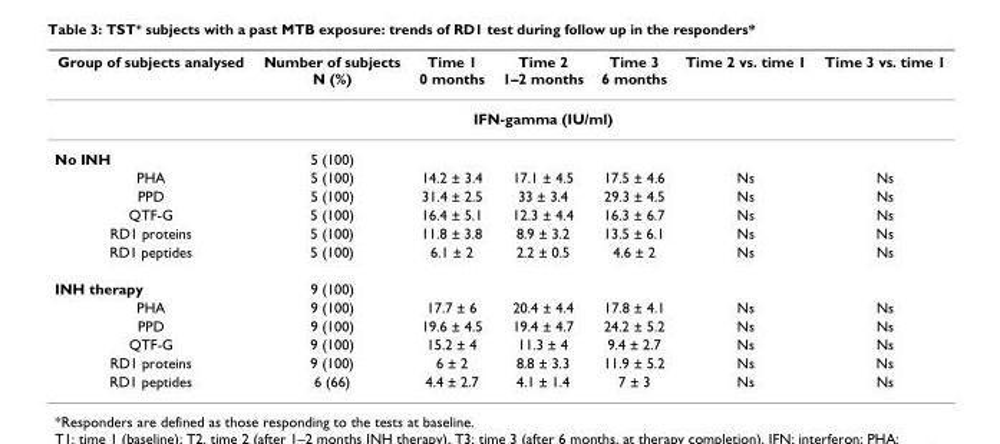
<table><thead><tr><td>Group of subjects analysed</td><td>Number of subjects N (%)</td><td>Time 1 0 months</td><td>Time 2 1–2 months</td><td>Time 3 6 months</td><td>Time 2 vs. time 1</td><td>Time 3 vs. time 1</td></tr></thead><tbody><tr><td></td><td></td><td colspan="3">IFN-gamma (IU/ml)</td><td></td><td></td></tr><tr><td>No INH</td><td>5 (100)</td><td></td><td></td><td></td><td></td><td></td></tr><tr><td>PHA</td><td>5 (100)</td><td>14.2 ± 3.4</td><td>17.1 ± 4.5</td><td>17.5 ± 4.6</td><td>Ns</td><td>Ns</td></tr><tr><td>PPD</td><td>5 (100)</td><td>31.4 ± 2.5</td><td>33 ± 3.4</td><td>29.3 ± 4.5</td><td>Ns</td><td>Ns</td></tr><tr><td>QTF-G</td><td>5 (100)</td><td>16.4 ± 5.1</td><td>12.3 ± 4.4</td><td>16.3 ± 6.7</td><td>Ns</td><td>Ns</td></tr><tr><td>RD1 proteins</td><td>5 (100)</td><td>11.8 ± 3.8</td><td>8.9 ± 3.2</td><td>13.5 ± 6.1</td><td>Ns</td><td>Ns</td></tr><tr><td>RD1 peptides</td><td>5 (100)</td><td>6.1 ± 2</td><td>2.2 ± 0.5</td><td>4.6 ± 2</td><td>Ns</td><td>Ns</td></tr><tr><td>INH therapy</td><td>9 (100)</td><td></td><td></td><td></td><td></td><td></td></tr><tr><td>PHA</td><td>9 (100)</td><td>17.7 ± 6</td><td>20.4 ± 4.4</td><td>17.8 ± 4.1</td><td>Ns</td><td>Ns</td></tr><tr><td>PPD</td><td>9 (100)</td><td>19.6 ± 4.5</td><td>19.4 ± 4.7</td><td>24.2 ± 5.2</td><td>Ns</td><td>Ns</td></tr><tr><td>QTF-G</td><td>9 (100)</td><td>15.2 ± 4</td><td>11.3 ± 4</td><td>9.4 ± 2.7</td><td>Ns</td><td>Ns</td></tr><tr><td>RD1 proteins</td><td>9 (100)</td><td>6 ± 2</td><td>8.8 ± 3.3</td><td>11.9 ± 5.2</td><td>Ns</td><td>Ns</td></tr><tr><td>RD1 peptides</td><td>6 (66)</td><td>4.4 ± 2.7</td><td>4.1 ± 1.4</td><td>7 ± 3</td><td>Ns</td><td>Ns</td></tr></tbody></table>